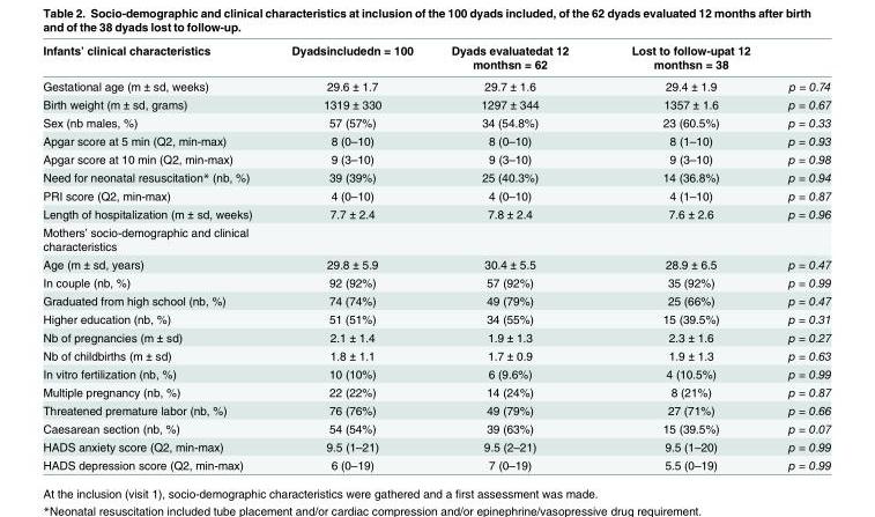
<table><thead><tr><td>Infants’ clinical characteristics</td><td>Dyadsincludedn = 100</td><td>Dyads evaluatedat 12 monthsn = 62</td><td>Lost to follow-upat 12 monthsn = 38</td><td></td></tr></thead><tbody><tr><td>Gestational age (m ± sd, weeks)</td><td>29.6 ± 1.7</td><td>29.7 ± 1.6</td><td>29.4 ± 1.9</td><td>p = 0.74</td></tr><tr><td>Birth weight (m ± sd, grams)</td><td>1319 ± 330</td><td>1297 ± 344</td><td>1357 ± 1.6</td><td>p = 0.67</td></tr><tr><td>Sex (nb males, %)</td><td>57 (57%)</td><td>34 (54.8%)</td><td>23 (60.5%)</td><td>p = 0.33</td></tr><tr><td>Apgar score at 5 min (Q2, min-max)</td><td>8 (0–10)</td><td>8 (0–10)</td><td>8 (1–10)</td><td>p = 0.93</td></tr><tr><td>Apgar score at 10 min (Q2, min-max)</td><td>9 (3–10)</td><td>9 (3–10)</td><td>9 (3–10)</td><td>p = 0.98</td></tr><tr><td>Need for neonatal resuscitation* (nb, %)</td><td>39 (39%)</td><td>25 (40.3%)</td><td>14 (36.8%)</td><td>p = 0.94</td></tr><tr><td>PRI score (Q2, min-max)</td><td>4 (0–10)</td><td>4 (0–10)</td><td>4 (1–10)</td><td>p = 0.87</td></tr><tr><td>Length of hospitalization (m ± sd, weeks)</td><td>7.7 ± 2.4</td><td>7.8 ± 2.4</td><td>7.6 ± 2.6</td><td>p = 0.96</td></tr><tr><td colspan="5">Mothers’ socio-demographic and clinical characteristics</td></tr><tr><td>Age (m ± sd, years)</td><td>29.8 ± 5.9</td><td>30.4 ± 5.5</td><td>28.9 ± 6.5</td><td>p = 0.47</td></tr><tr><td>In couple (nb, %)</td><td>92 (92%)</td><td>57 (92%)</td><td>35 (92%)</td><td>p = 0.99</td></tr><tr><td>Graduated from high school (nb, %)</td><td>74 (74%)</td><td>49 (79%)</td><td>25 (66%)</td><td>p = 0.47</td></tr><tr><td>Higher education (nb, %)</td><td>51 (51%)</td><td>34 (55%)</td><td>15 (39.5%)</td><td>p = 0.31</td></tr><tr><td>Nb of pregnancies (m ± sd)</td><td>2.1 ± 1.4</td><td>1.9 ± 1.3</td><td>2.3 ± 1.6</td><td>p = 0.27</td></tr><tr><td>Nb of childbirths (m ± sd)</td><td>1.8 ± 1.1</td><td>1.7 ± 0.9</td><td>1.9 ± 1.3</td><td>p = 0.63</td></tr><tr><td>In vitro fertilization (nb, %)</td><td>10 (10%)</td><td>6 (9.6%)</td><td>4 (10.5%)</td><td>p = 0.99</td></tr><tr><td>Multiple pregnancy (nb, %)</td><td>22 (22%)</td><td>14 (24%)</td><td>8 (21%)</td><td>p = 0.87</td></tr><tr><td>Threatened premature labor (nb, %)</td><td>76 (76%)</td><td>49 (79%)</td><td>27 (71%)</td><td>p = 0.66</td></tr><tr><td>Caesarean section (nb, %)</td><td>54 (54%)</td><td>39 (63%)</td><td>15 (39.5%)</td><td>p = 0.07</td></tr><tr><td>HADS anxiety score (Q2, min-max)</td><td>9.5 (1–21)</td><td>9.5 (2–21)</td><td>9.5 (1–20)</td><td>p = 0.99</td></tr><tr><td>HADS depression score (Q2, min-max)</td><td>6 (0–19)</td><td>7 (0–19)</td><td>5.5 (0–19)</td><td>p = 0.99</td></tr></tbody></table>